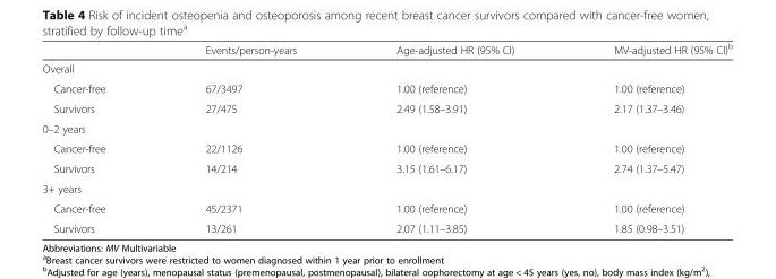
<table><thead><tr><td></td><td>Events/person-years</td><td>Age-adjusted HR (95% CI)</td><td>MV-adjusted HR (95% CI)<sup>b</sup></td></tr></thead><tbody><tr><td colspan="4">Overall</td></tr><tr><td>Cancer-free</td><td>67/3497</td><td>1.00 (reference)</td><td>1.00 (reference)</td></tr><tr><td>Survivors</td><td>27/475</td><td>2.49 (1.58–3.91)</td><td>2.17 (1.37–3.46)</td></tr><tr><td colspan="4">0–2 years</td></tr><tr><td>Cancer-free</td><td>22/1126</td><td>1.00 (reference)</td><td>1.00 (reference)</td></tr><tr><td>Survivors</td><td>14/214</td><td>3.15 (1.61–6.17)</td><td>2.74 (1.37–5.47)</td></tr><tr><td colspan="4">3+ years</td></tr><tr><td>Cancer-free</td><td>45/2371</td><td>1.00 (reference)</td><td>1.00 (reference)</td></tr><tr><td>Survivors</td><td>13/261</td><td>2.07 (1.11–3.85)</td><td>1.85 (0.98–3.51)</td></tr></tbody></table>